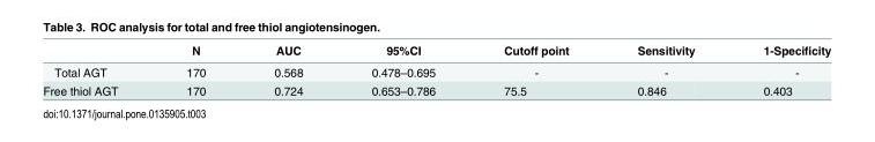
<table><thead><tr><td></td><td>N</td><td>AUC</td><td>95%CI</td><td>Cutoff point</td><td>Sensitivity</td><td>1-Specificity</td></tr></thead><tbody><tr><td>Total AGT</td><td>170</td><td>0.568</td><td>0.478–0.695</td><td>-</td><td>-</td><td>-</td></tr><tr><td>Free thiol AGT</td><td>170</td><td>0.724</td><td>0.653–0.786</td><td>75.5</td><td>0.846</td><td>0.403</td></tr></tbody></table>